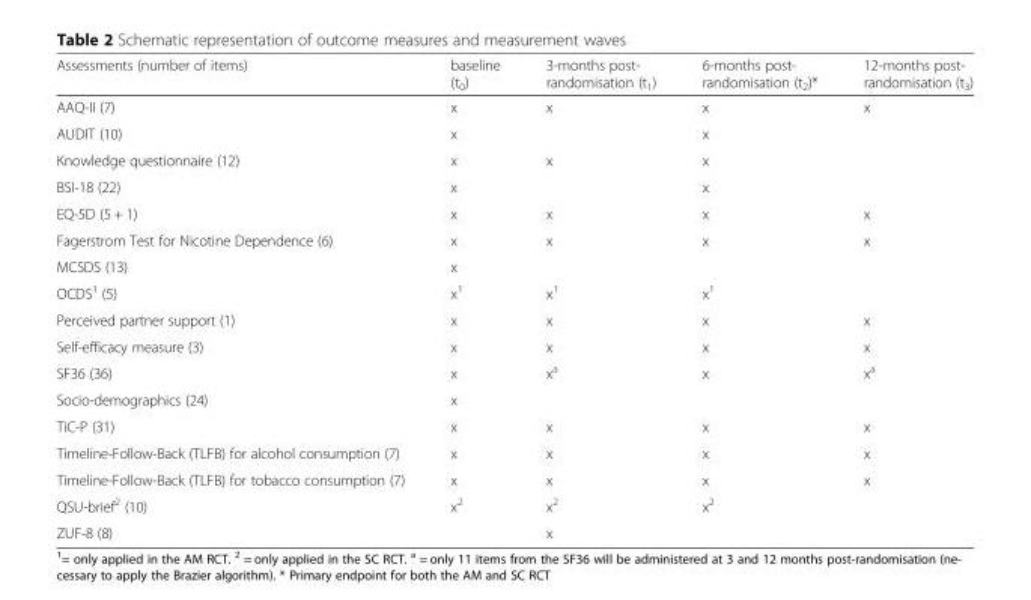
<table><thead><tr><td>Assessments (number of items)</td><td>baseline (t<sub>0</sub>)</td><td>3-months post- randomisation (t<sub>1</sub>)</td><td>6-months post- randomisation (t<sub>2</sub>)*</td><td>12-months post- randomisation (t<sub>3</sub>)</td></tr></thead><tbody><tr><td>AAQ-II (7)</td><td>x</td><td>x</td><td>x</td><td>x</td></tr><tr><td>AUDIT (10)</td><td>x</td><td></td><td>x</td><td></td></tr><tr><td>Knowledge questionnaire (12)</td><td>x</td><td>x</td><td>x</td><td></td></tr><tr><td>BSI-18 (22)</td><td>x</td><td></td><td>x</td><td></td></tr><tr><td>EQ-5D (5 + 1)</td><td>x</td><td>x</td><td>x</td><td>x</td></tr><tr><td>Fagerstrom Test for Nicotine Dependence (6)</td><td>x</td><td>x</td><td>x</td><td>x</td></tr><tr><td>MCSDS (13)</td><td>x</td><td></td><td></td><td></td></tr><tr><td>OCDS<sup>1</sup> (5)</td><td>x<sup>1</sup></td><td>x<sup>1</sup></td><td>x<sup>1</sup></td><td></td></tr><tr><td>Perceived partner support (1)</td><td>x</td><td>x</td><td>x</td><td>x</td></tr><tr><td>Self-efficacy measure (3)</td><td>x</td><td>x</td><td>x</td><td>x</td></tr><tr><td>SF36 (36)</td><td>x</td><td>x<sup>a</sup></td><td>x</td><td>x<sup>a</sup></td></tr><tr><td>Socio-demographics (24)</td><td>x</td><td></td><td></td><td></td></tr><tr><td>TiC-P (31)</td><td>x</td><td>x</td><td>x</td><td>x</td></tr><tr><td>Timeline-Follow-Back (TLFB) for alcohol consumption (7)</td><td>x</td><td>x</td><td>x</td><td>x</td></tr><tr><td>Timeline-Follow-Back (TLFB) for tobacco consumption (7)</td><td>x</td><td>x</td><td>x</td><td>x</td></tr><tr><td>QSU-brief<sup>2</sup> (10)</td><td>x<sup>2</sup></td><td>x<sup>2</sup></td><td>x<sup>2</sup></td><td></td></tr><tr><td>ZUF-8 (8)</td><td></td><td>x</td><td></td><td></td></tr></tbody></table>